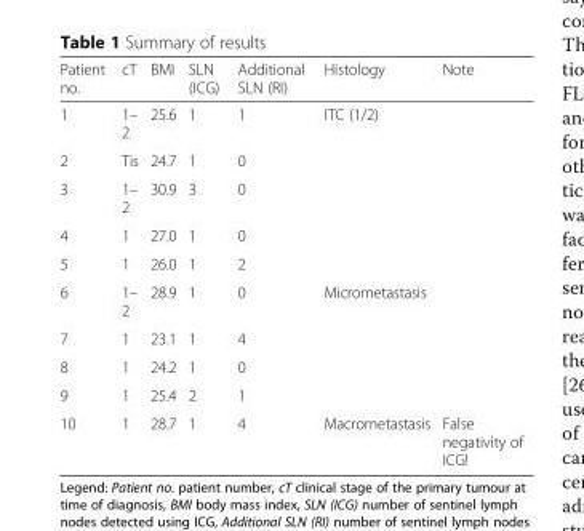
<table><thead><tr><td>Patient no.</td><td>cT</td><td>BMI</td><td>SLN (ICG)</td><td>Additional SLN (RI)</td><td>Histology</td><td>Note</td></tr></thead><tbody><tr><td>1</td><td>1– 2</td><td>25.6</td><td>1</td><td>1</td><td>ITC (1/2)</td><td></td></tr><tr><td>2</td><td>Tis</td><td>24.7</td><td>1</td><td>0</td><td></td><td></td></tr><tr><td>3</td><td>1– 2</td><td>30.9</td><td>3</td><td>0</td><td></td><td></td></tr><tr><td>4</td><td>1</td><td>27.0</td><td>1</td><td>0</td><td></td><td></td></tr><tr><td>5</td><td>1</td><td>26.0</td><td>1</td><td>2</td><td></td><td></td></tr><tr><td>6</td><td>1– 2</td><td>28.9</td><td>1</td><td>0</td><td>Micrometastasis</td><td></td></tr><tr><td>7</td><td>1</td><td>23.1</td><td>1</td><td>4</td><td></td><td></td></tr><tr><td>8</td><td>1</td><td>24.2</td><td>1</td><td>0</td><td></td><td></td></tr><tr><td>9</td><td>1</td><td>25.4</td><td>2</td><td>1</td><td></td><td></td></tr><tr><td>10</td><td>1</td><td>28.7</td><td>1</td><td>4</td><td>Macrometastasis</td><td>False negativity of ICG!</td></tr></tbody></table>